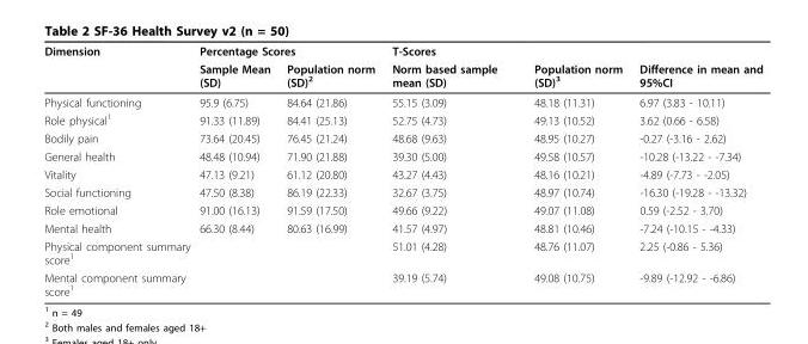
<table><thead><tr><td rowspan="2">Dimension</td><td colspan="2">Percentage Scores</td><td rowspan="2">T-Scores Norm based sample mean (SD)</td><td rowspan="2">Population norm (SD)<sup>3</sup></td><td rowspan="2">Difference in mean and 95%CI</td></tr><tr><td>Sample Mean (SD)</td><td>Population norm (SD)<sup>2</sup></td></tr></thead><tbody><tr><td>Physical functioning</td><td>95.9 (6.75)</td><td>84.64 (21.86)</td><td>55.15 (3.09)</td><td>48.18 (11.31)</td><td>6.97 (3.83 - 10.11)</td></tr><tr><td>Role physical<sup>1</sup></td><td>91.33 (11.89)</td><td>84.41 (25.13)</td><td>52.75 (4.73)</td><td>49.13 (10.52)</td><td>3.62 (0.66 - 6.58)</td></tr><tr><td>Bodily pain</td><td>73.64 (20.45)</td><td>76.45 (21.24)</td><td>48.68 (9.63)</td><td>48.95 (10.27)</td><td>-0.27 (-3.16 - 2.62)</td></tr><tr><td>General health</td><td>48.48 (10.94)</td><td>71.90 (21.88)</td><td>39.30 (5.00)</td><td>49.58 (10.57)</td><td>-10.28 (-13.22 - -7.34)</td></tr><tr><td>Vitality</td><td>47.13 (9.21)</td><td>61.12 (20.80)</td><td>43.27 (4.43)</td><td>48.16 (10.21)</td><td>-4.89 (-7.73 - -2.05)</td></tr><tr><td>Social functioning</td><td>47.50 (8.38)</td><td>86.19 (22.33)</td><td>32.67 (3.75)</td><td>48.97 (10.74)</td><td>-16.30 (-19.28 - -13.32)</td></tr><tr><td>Role emotional</td><td>91.00 (16.13)</td><td>91.59 (17.50)</td><td>49.66 (9.22)</td><td>49.07 (11.08)</td><td>0.59 (-2.52 - 3.70)</td></tr><tr><td>Mental health</td><td>66.30 (8.44)</td><td>80.63 (16.99)</td><td>41.57 (4.97)</td><td>48.81 (10.46)</td><td>-7.24 (-10.15 - -4.33)</td></tr><tr><td>Physical component summary score<sup>1</sup></td><td></td><td></td><td>51.01 (4.28)</td><td>48.76 (11.07)</td><td>2.25 (-0.86 - 5.36)</td></tr><tr><td>Mental component summary score<sup>1</sup></td><td></td><td></td><td>39.19 (5.74)</td><td>49.08 (10.75)</td><td>-9.89 (-12.92 - -6.86)</td></tr></tbody></table>